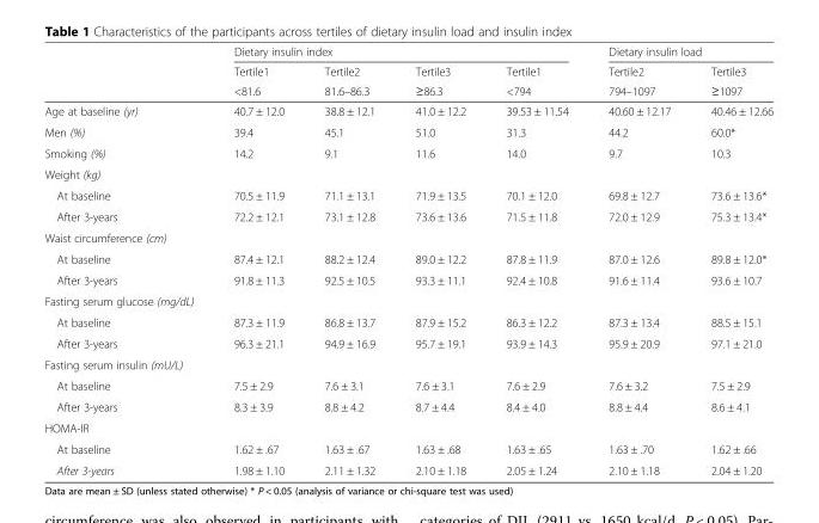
<table><thead><tr><td rowspan="3"></td><td colspan="4">Dietary insulin index</td><td colspan="2">Dietary insulin load</td></tr><tr><td rowspan="2">Tertile1 &lt;81.6</td><td rowspan="2">Tertile2 81.6–86.3</td><td rowspan="2">Tertile3 ≥86.3</td><td rowspan="2">Tertile1 &lt;794</td><td rowspan="2">Tertile2 794–1097</td><td rowspan="2">Tertile3 ≥1097</td></tr><tr></tr></thead><tbody><tr><td>Age at baseline (yr)</td><td>40.7 ± 12.0</td><td>38.8 ± 12.1</td><td>41.0 ± 12.2</td><td>39.53 ± 11.54</td><td>40.60 ± 12.17</td><td>40.46 ± 12.66</td></tr><tr><td>Men (%)</td><td>39.4</td><td>45.1</td><td>51.0</td><td>31.3</td><td>44.2</td><td>60.0*</td></tr><tr><td>Smoking (%)</td><td>14.2</td><td>9.1</td><td>11.6</td><td>14.0</td><td>9.7</td><td>10.3</td></tr><tr><td colspan="7">Weight (kg)</td></tr><tr><td>At baseline</td><td>70.5 ± 11.9</td><td>71.1 ± 13.1</td><td>71.9 ± 13.5</td><td>70.1 ± 12.0</td><td>69.8 ± 12.7</td><td>73.6 ± 13.6*</td></tr><tr><td>After 3-years</td><td>72.2 ± 12.1</td><td>73.1 ± 12.8</td><td>73.6 ± 13.6</td><td>71.5 ± 11.8</td><td>72.0 ± 12.9</td><td>75.3 ± 13.4*</td></tr><tr><td colspan="7">Waist circumference (cm)</td></tr><tr><td>At baseline</td><td>87.4 ± 12.1</td><td>88.2 ± 12.4</td><td>89.0 ± 12.2</td><td>87.8 ± 11.9</td><td>87.0 ± 12.6</td><td>89.8 ± 12.0*</td></tr><tr><td>After 3-years</td><td>91.8 ± 11.3</td><td>92.5 ± 10.5</td><td>93.3 ± 11.1</td><td>92.4 ± 10.8</td><td>91.6 ± 11.4</td><td>93.6 ± 10.7</td></tr><tr><td colspan="7">Fasting serum glucose (mg/dL)</td></tr><tr><td>At baseline</td><td>87.3 ± 11.9</td><td>86.8 ± 13.7</td><td>87.9 ± 15.2</td><td>86.3 ± 12.2</td><td>87.3 ± 13.4</td><td>88.5 ± 15.1</td></tr><tr><td>After 3-years</td><td>96.3 ± 21.1</td><td>94.9 ± 16.9</td><td>95.7 ± 19.1</td><td>93.9 ± 14.3</td><td>95.9 ± 20.9</td><td>97.1 ± 21.0</td></tr><tr><td colspan="7">Fasting serum insulin (mU/L)</td></tr><tr><td>At baseline</td><td>7.5 ± 2.9</td><td>7.6 ± 3.1</td><td>7.6 ± 3.1</td><td>7.6 ± 2.9</td><td>7.6 ± 3.2</td><td>7.5 ± 2.9</td></tr><tr><td>After 3-years</td><td>8.3 ± 3.9</td><td>8.8 ± 4.2</td><td>8.7 ± 4.4</td><td>8.4 ± 4.0</td><td>8.8 ± 4.4</td><td>8.6 ± 4.1</td></tr><tr><td colspan="7">HOMA-IR</td></tr><tr><td>At baseline</td><td>1.62 ± .67</td><td>1.63 ± .67</td><td>1.63 ± .68</td><td>1.63 ± .65</td><td>1.63 ± .70</td><td>1.62 ± .66</td></tr><tr><td>After 3-years</td><td>1.98 ± 1.10</td><td>2.11 ± 1.32</td><td>2.10 ± 1.18</td><td>2.05 ± 1.24</td><td>2.10 ± 1.18</td><td>2.04 ± 1.20</td></tr></tbody></table>